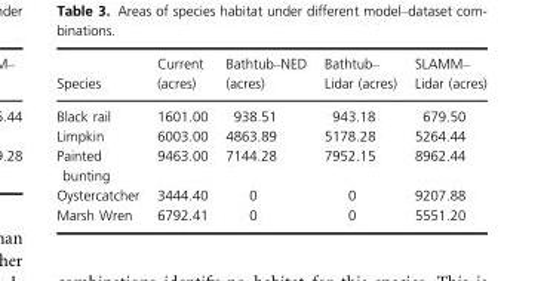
<table><thead><tr><td>Species</td><td>Current (acres)</td><td>Bathtub–NED (acres)</td><td>Bathtub– Lidar (acres)</td><td>SLAMM– Lidar (acres)</td></tr></thead><tbody><tr><td>Black rail</td><td>1601.00</td><td>938.51</td><td>943.18</td><td>679.50</td></tr><tr><td>Limpkin</td><td>6003.00</td><td>4863.89</td><td>5178.28</td><td>5264.44</td></tr><tr><td>Painted bunting</td><td>9463.00</td><td>7144.28</td><td>7952.15</td><td>8962.44</td></tr><tr><td>Oystercatcher</td><td>3444.40</td><td>0</td><td>0</td><td>9207.88</td></tr><tr><td>Marsh Wren</td><td>6792.41</td><td>0</td><td>0</td><td>5551.20</td></tr></tbody></table>